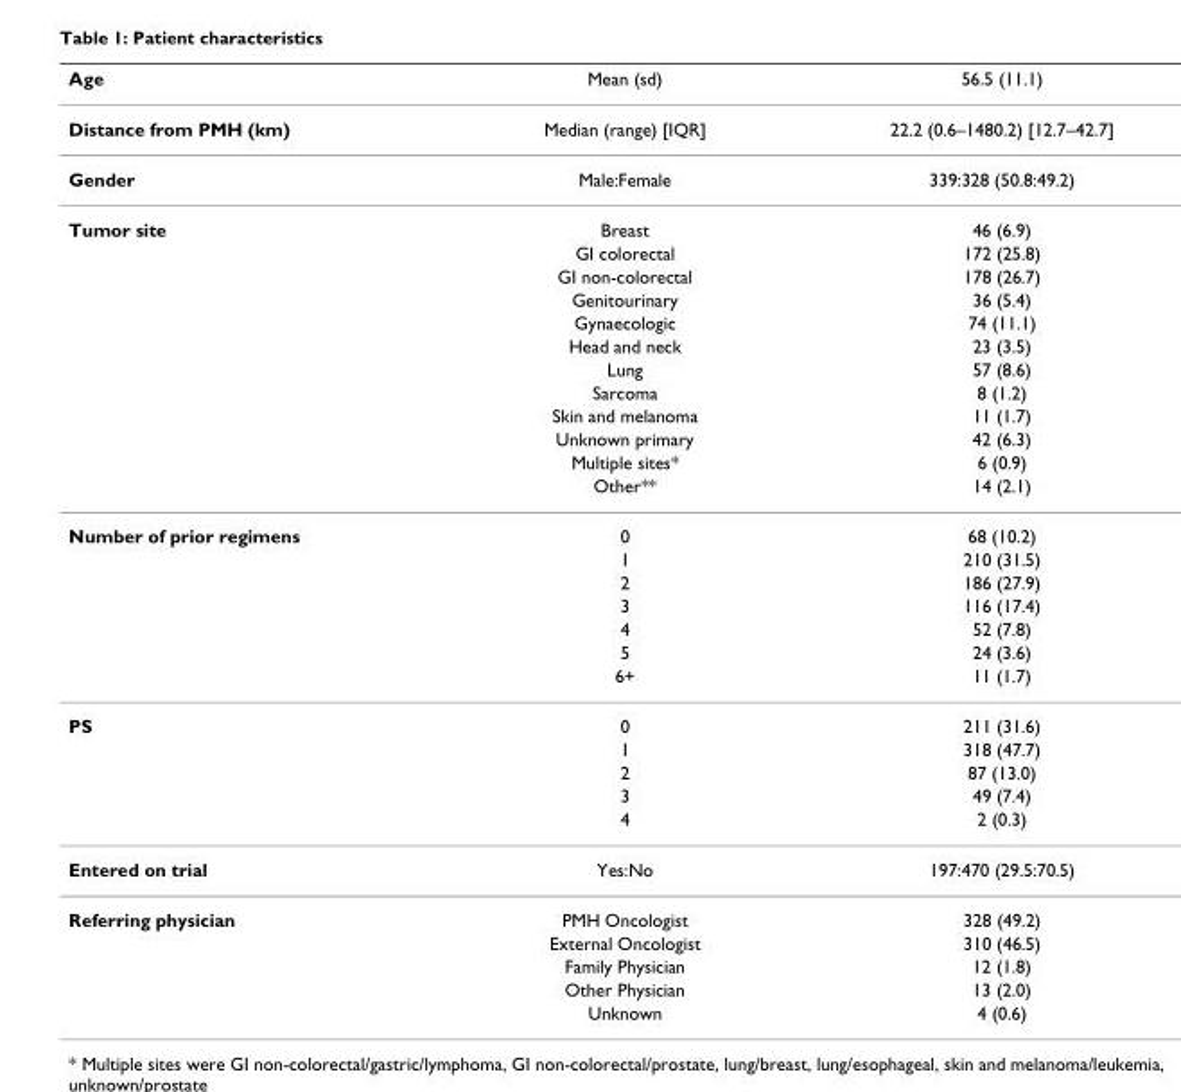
<table><thead><tr><td>Age</td><td>Mean (sd)</td><td>56.5 (11.1)</td></tr></thead><tbody><tr><td>Distance from PMH (km)</td><td>Median (range) [IQR]</td><td>22.2 (0.6–1480.2) [12.7–42.7]</td></tr><tr><td>Gender</td><td>Male:Female</td><td>339:328 (50.8:49.2)</td></tr><tr><td rowspan="12">Tumor site</td><td>Breast</td><td>46 (6.9)</td></tr><tr><td>GI colorectal</td><td>172 (25.8)</td></tr><tr><td>GI non-colorectal</td><td>178 (26.7)</td></tr><tr><td>Genitourinary</td><td>36 (5.4)</td></tr><tr><td>Gynaecologic</td><td>74 (11.1)</td></tr><tr><td>Head and neck</td><td>23 (3.5)</td></tr><tr><td>Lung</td><td>57 (8.6)</td></tr><tr><td>Sarcoma</td><td>8 (1.2)</td></tr><tr><td>Skin and melanoma</td><td>11 (1.7)</td></tr><tr><td>Unknown primary</td><td>42 (6.3)</td></tr><tr><td>Multiple sites*</td><td>6 (0.9)</td></tr><tr><td>Other**</td><td>14 (2.1)</td></tr><tr><td rowspan="7">Number of prior regimens</td><td>0</td><td>68 (10.2)</td></tr><tr><td>1</td><td>210 (31.5)</td></tr><tr><td>2</td><td>186 (27.9)</td></tr><tr><td>3</td><td>116 (17.4)</td></tr><tr><td>4</td><td>52 (7.8)</td></tr><tr><td>5</td><td>24 (3.6)</td></tr><tr><td>6+</td><td>11 (1.7)</td></tr><tr><td rowspan="5">PS</td><td>0</td><td>211 (31.6)</td></tr><tr><td>1</td><td>318 (47.7)</td></tr><tr><td>2</td><td>87 (13.0)</td></tr><tr><td>3</td><td>49 (7.4)</td></tr><tr><td>4</td><td>2 (0.3)</td></tr><tr><td>Entered on trial</td><td>Yes:No</td><td>197:470 (29.5:70.5)</td></tr><tr><td rowspan="5">Referring physician</td><td>PMH Oncologist</td><td>328 (49.2)</td></tr><tr><td>External Oncologist</td><td>310 (46.5)</td></tr><tr><td>Family Physician</td><td>12 (1.8)</td></tr><tr><td>Other Physician</td><td>13 (2.0)</td></tr><tr><td>Unknown</td><td>4 (0.6)</td></tr></tbody></table>